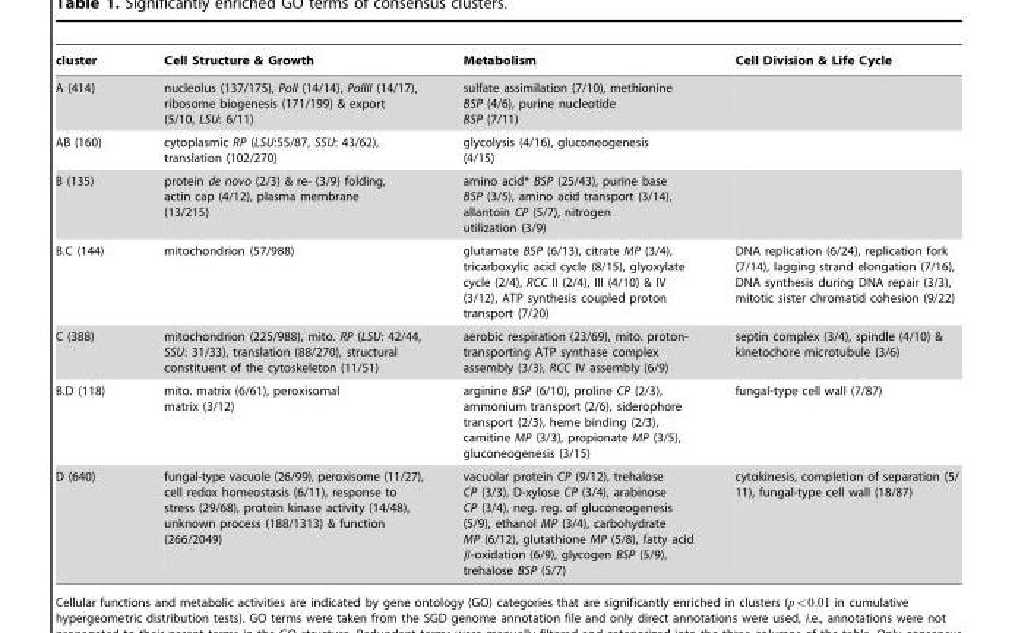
<table><thead><tr><td>cluster</td><td>Cell Structure &amp; Growth</td><td>Metabolism</td><td>Cell Division &amp; Life Cycle</td></tr></thead><tbody><tr><td>A (414)</td><td>nucleolus (137/175), PolI (14/14), PolIII (14/17), ribosome biogenesis (171/199) &amp; export (5/10, LSU: 6/11)</td><td>sulfate assimilation (7/10), methionine BSP (4/6), purine nucleotide BSP (7/11)</td><td></td></tr><tr><td>AB (160)</td><td>cytoplasmic RP (LSU:55/87, SSU: 43/62), translation (102/270)</td><td>glycolysis (4/16), gluconeogenesis (4/15)</td><td></td></tr><tr><td>B (135)</td><td>protein de novo (2/3) &amp; re- (3/9) folding, actin cap (4/12), plasma membrane (13/215)</td><td>amino acid* BSP (25/43), purine base BSP (3/5), amino acid transport (3/14), allantoin CP (5/7), nitrogen utilization (3/9)</td><td></td></tr><tr><td>B.C (144)</td><td>mitochondrion (57/988)</td><td>glutamate BSP (6/13), citrate MP (3/4), tricarboxylic acid cycle (8/15), glyoxylate cycle (2/4), RCC II (2/4), III (4/10) &amp; IV (3/12), ATP synthesis coupled proton transport (7/20)</td><td>DNA replication (6/24), replication fork (7/14), lagging strand elongation (7/16), DNA synthesis during DNA repair (3/3), mitotic sister chromatid cohesion (9/22)</td></tr><tr><td>C (388)</td><td>mitochondrion (225/988), mito. RP (LSU: 42/44, SSU: 31/33), translation (88/270), structural constituent of the cytoskeleton (11/51)</td><td>aerobic respiration (23/69), mito. proton- transporting ATP synthase complex assembly (3/3), RCC IV assembly (6/9)</td><td>septin complex (3/4), spindle (4/10) &amp; kinetochore microtubule (3/6)</td></tr><tr><td>B.D (118)</td><td>mito. matrix (6/61), peroxisomal matrix (3/12)</td><td>arginine BSP (6/10), proline CP (2/3), ammonium transport (2/6), siderophore transport (2/3), heme binding (2/3), carnitine MP (3/3), propionate MP (3/5), gluconeogenesis (3/15)</td><td>fungal-type cell wall (7/87)</td></tr><tr><td>D (640)</td><td>fungal-type vacuole (26/99), peroxisome (11/27), cell redox homeostasis (6/11), response to stress (29/68), protein kinase activity (14/48), unknown process (188/1313) &amp; function (266/2049)</td><td>vacuolar protein CP (9/12), trehalose CP (3/3), D-xylose CP (3/4), arabinose CP (3/4), neg. reg. of gluconeogenesis (5/9), ethanol MP (3/4), carbohydrate MP (6/12), glutathione MP (5/8), fatty acid b-oxidation (6/9), glycogen BSP (5/9), trehalose BSP (5/7)</td><td>cytokinesis, completion of separation (5/ 11), fungal-type cell wall (18/87)</td></tr></tbody></table>